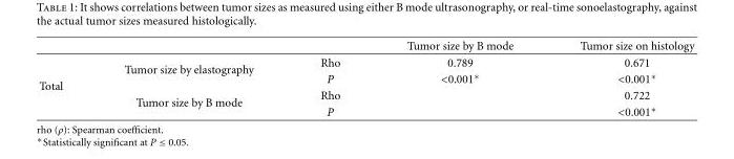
<table><thead><tr><td></td><td></td><td></td><td>Tumor size by B mode</td><td>Tumor size on histology</td></tr></thead><tbody><tr><td rowspan="4">Total</td><td rowspan="2">Tumor size by elastography</td><td>Rho</td><td>0.789</td><td>0.671</td></tr><tr><td>P</td><td>&lt;0.001∗</td><td>&lt;0.001∗</td></tr><tr><td rowspan="2">Tumor size by B mode</td><td>Rho</td><td></td><td>0.722</td></tr><tr><td>P</td><td></td><td>&lt;0.001∗</td></tr></tbody></table>